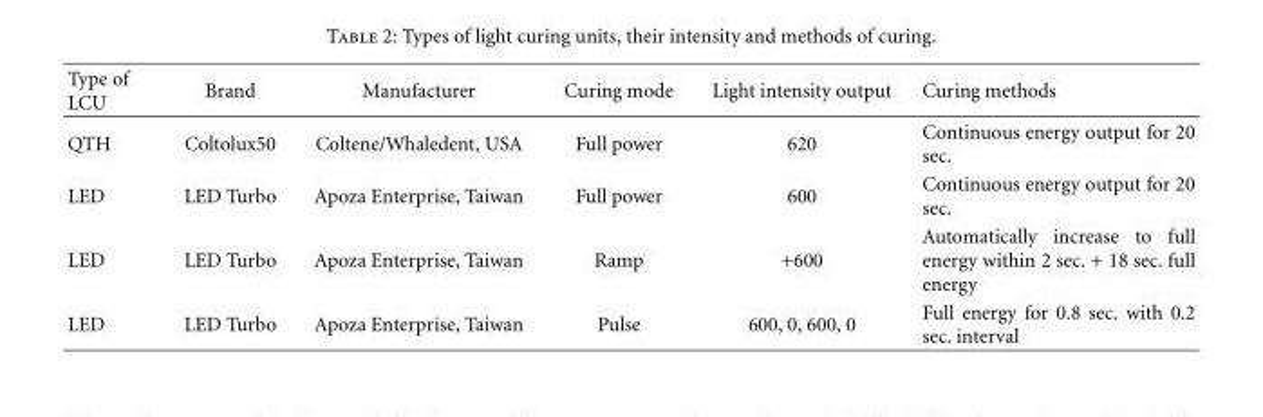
<table><thead><tr><td>Type of LCU</td><td>Brand</td><td>Manufacturer</td><td>Curing mode</td><td>Light intensity output</td><td>Curing methods</td></tr></thead><tbody><tr><td>QTH</td><td>Coltolux50</td><td>Coltene/Whaledent, USA</td><td>Full power</td><td>620</td><td>Continuous energy output for 20 sec.</td></tr><tr><td>LED</td><td>LED Turbo</td><td>Apoza Enterprise, Taiwan</td><td>Full power</td><td>600</td><td>Continuous energy output for 20 sec.</td></tr><tr><td>LED</td><td>LED Turbo</td><td>Apoza Enterprise, Taiwan</td><td>Ramp</td><td>+600</td><td>Automatically increase to full energy within 2 sec. + 18 sec. full energy</td></tr><tr><td>LED</td><td>LED Turbo</td><td>Apoza Enterprise, Taiwan</td><td>Pulse</td><td>600, 0, 600, 0</td><td>Full energy for 0.8 sec. with 0.2 sec. interval</td></tr></tbody></table>